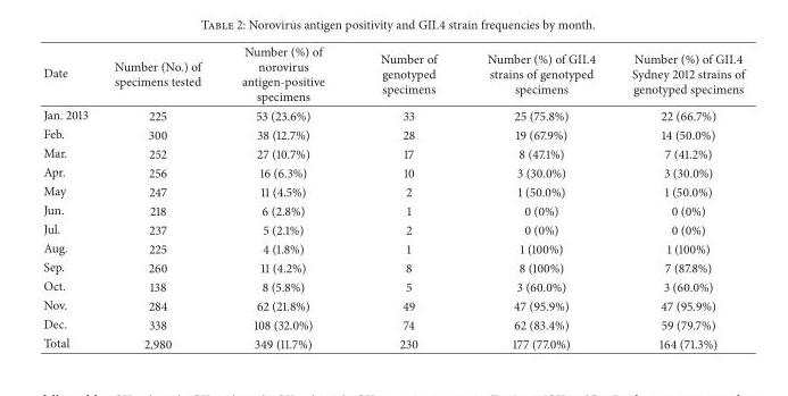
<table><thead><tr><td>Date</td><td>Number (No.) of specimens tested</td><td>Number (%) of norovirus antigen-positive specimens</td><td>Number of genotyped specimens</td><td>Number (%) of GII.4 strains of genotyped specimens</td><td>Number (%) of GII.4 Sydney 2012 strains of genotyped specimens</td></tr></thead><tbody><tr><td>Jan. 2013</td><td>225</td><td>53 (23.6%)</td><td>33</td><td>25 (75.8%)</td><td>22 (66.7%)</td></tr><tr><td>Feb.</td><td>300</td><td>38 (12.7%)</td><td>28</td><td>19 (67.9%)</td><td>14 (50.0%)</td></tr><tr><td>Mar.</td><td>252</td><td>27 (10.7%)</td><td>17</td><td>8 (47.1%)</td><td>7 (41.2%)</td></tr><tr><td>Apr.</td><td>256</td><td>16 (6.3%)</td><td>10</td><td>3 (30.0%)</td><td>3 (30.0%)</td></tr><tr><td>May</td><td>247</td><td>11 (4.5%)</td><td>2</td><td>1 (50.0%)</td><td>1 (50.0%)</td></tr><tr><td>Jun.</td><td>218</td><td>6 (2.8%)</td><td>1</td><td>0 (0%)</td><td>0 (0%)</td></tr><tr><td>Jul.</td><td>237</td><td>5 (2.1%)</td><td>2</td><td>0 (0%)</td><td>0 (0%)</td></tr><tr><td>Aug.</td><td>225</td><td>4 (1.8%)</td><td>1</td><td>1 (100%)</td><td>1 (100%)</td></tr><tr><td>Sep.</td><td>260</td><td>11 (4.2%)</td><td>8</td><td>8 (100%)</td><td>7 (87.8%)</td></tr><tr><td>Oct.</td><td>138</td><td>8 (5.8%)</td><td>5</td><td>3 (60.0%)</td><td>3 (60.0%)</td></tr><tr><td>Nov.</td><td>284</td><td>62 (21.8%)</td><td>49</td><td>47 (95.9%)</td><td>47 (95.9%)</td></tr><tr><td>Dec.</td><td>338</td><td>108 (32.0%)</td><td>74</td><td>62 (83.4%)</td><td>59 (79.7%)</td></tr><tr><td>Total</td><td>2,980</td><td>349 (11.7%)</td><td>230</td><td>177 (77.0%)</td><td>164 (71.3%)</td></tr></tbody></table>